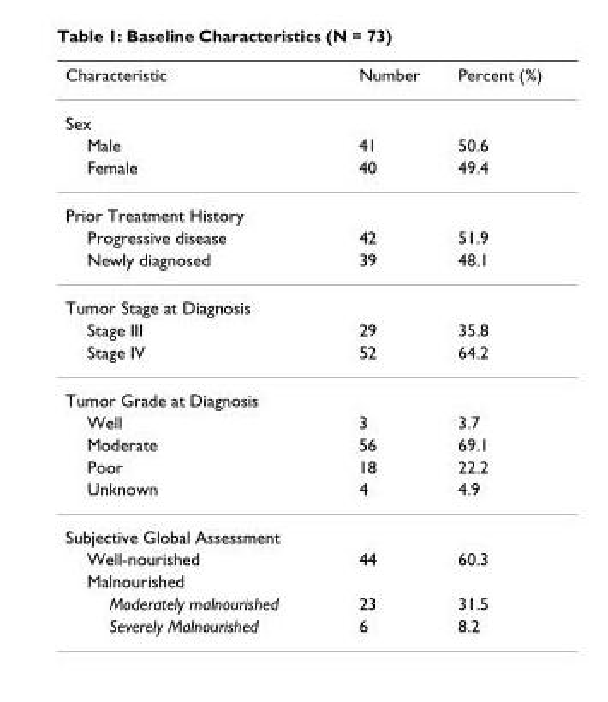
<table><thead><tr><td>Characteristic</td><td>Number</td><td>Percent (%)</td></tr></thead><tbody><tr><td colspan="3">Sex</td></tr><tr><td>Male</td><td>41</td><td>50.6</td></tr><tr><td>Female</td><td>40</td><td>49.4</td></tr><tr><td colspan="3">Prior Treatment History</td></tr><tr><td>Progressive disease</td><td>42</td><td>51.9</td></tr><tr><td>Newly diagnosed</td><td>39</td><td>48.1</td></tr><tr><td colspan="3">Tumor Stage at Diagnosis</td></tr><tr><td>Stage III</td><td>29</td><td>35.8</td></tr><tr><td>Stage IV</td><td>52</td><td>64.2</td></tr><tr><td colspan="3">Tumor Grade at Diagnosis</td></tr><tr><td>Well</td><td>3</td><td>3.7</td></tr><tr><td>Moderate</td><td>56</td><td>69.1</td></tr><tr><td>Poor</td><td>18</td><td>22.2</td></tr><tr><td>Unknown</td><td>4</td><td>4.9</td></tr><tr><td colspan="3">Subjective Global Assessment</td></tr><tr><td>Well-nourished</td><td>44</td><td>60.3</td></tr><tr><td colspan="3">Malnourished</td></tr><tr><td>Moderately malnourished</td><td>23</td><td>31.5</td></tr><tr><td>Severely Malnourished</td><td>6</td><td>8.2</td></tr></tbody></table>